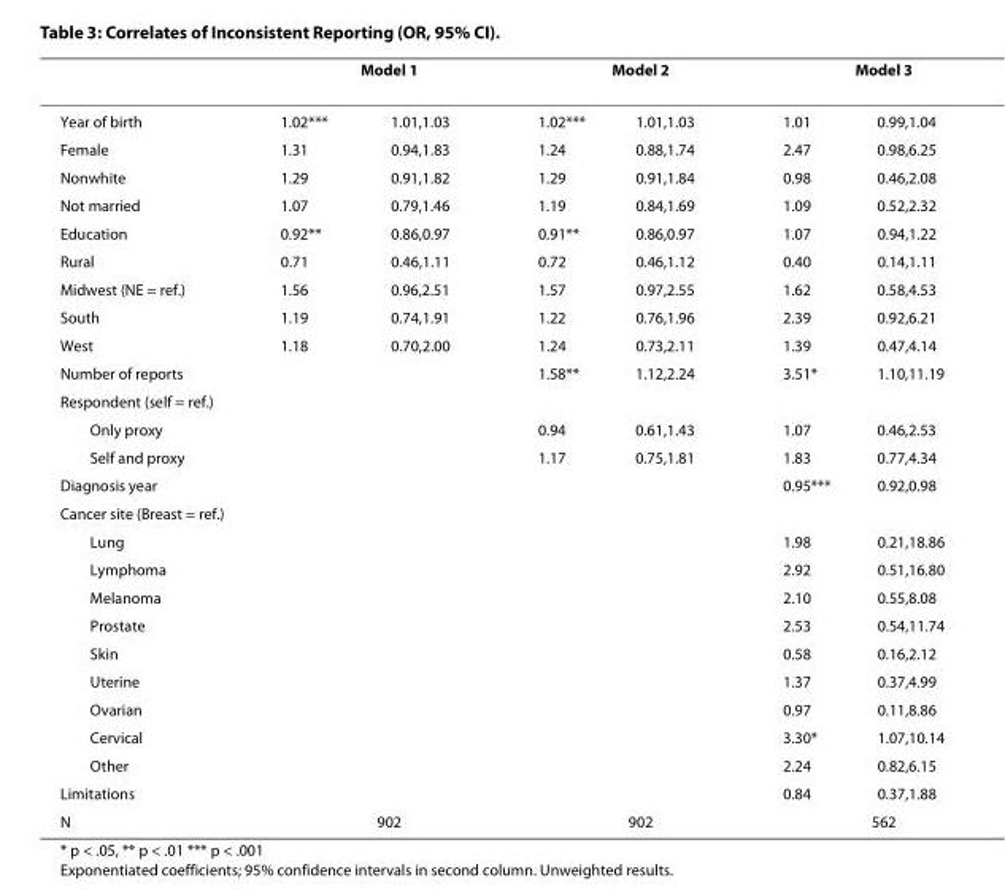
<table><thead><tr><td rowspan="2">Year of birth</td><td colspan="2">Model 1</td><td colspan="2">Model 2</td><td colspan="2">Model 3</td></tr><tr><td>1.02***</td><td>1.01,1.03</td><td>1.02***</td><td>1.01,1.03</td><td>1.01</td><td>0.99,1.04</td></tr></thead><tbody><tr><td>Female</td><td>1.31</td><td>0.94,1.83</td><td>1.24</td><td>0.88,1.74</td><td>2.47</td><td>0.98,6.25</td></tr><tr><td>Nonwhite</td><td>1.29</td><td>0.91,1.82</td><td>1.29</td><td>0.91,1.84</td><td>0.98</td><td>0.46,2.08</td></tr><tr><td>Not married</td><td>1.07</td><td>0.79,1.46</td><td>1.19</td><td>0.84,1.69</td><td>1.09</td><td>0.52,2.32</td></tr><tr><td>Education</td><td>0.92**</td><td>0.86,0.97</td><td>0.91**</td><td>0.86,0.97</td><td>1.07</td><td>0.94,1.22</td></tr><tr><td>Rural</td><td>0.71</td><td>0.46,1.11</td><td>0.72</td><td>0.46,1.12</td><td>0.40</td><td>0.14,1.11</td></tr><tr><td>Midwest (NE = ref.)</td><td>1.56</td><td>0.96,2.51</td><td>1.57</td><td>0.97,2.55</td><td>1.62</td><td>0.58,4.53</td></tr><tr><td>South</td><td>1.19</td><td>0.74,1.91</td><td>1.22</td><td>0.76,1.96</td><td>2.39</td><td>0.92,6.21</td></tr><tr><td>West</td><td>1.18</td><td>0.70,2.00</td><td>1.24</td><td>0.73,2.11</td><td>1.39</td><td>0.47,4.14</td></tr><tr><td>Number of reports</td><td></td><td></td><td>1.58**</td><td>1.12,2.24</td><td>3.51*</td><td>1.10,11.19</td></tr><tr><td colspan="7">Respondent (self = ref.)</td></tr><tr><td>Only proxy</td><td></td><td></td><td>0.94</td><td>0.61,1.43</td><td>1.07</td><td>0.46,2.53</td></tr><tr><td>Self and proxy</td><td></td><td></td><td>1.17</td><td>0.75,1.81</td><td>1.83</td><td>0.77,4.34</td></tr><tr><td>Diagnosis year</td><td></td><td></td><td></td><td></td><td>0.95***</td><td>0.92,0.98</td></tr><tr><td colspan="7">Cancer site (Breast = ref.)</td></tr><tr><td>Lung</td><td></td><td></td><td></td><td></td><td>1.98</td><td>0.21,18.86</td></tr><tr><td>Lymphoma</td><td></td><td></td><td></td><td></td><td>2.92</td><td>0.51,16.80</td></tr><tr><td>Melanoma</td><td></td><td></td><td></td><td></td><td>2.10</td><td>0.55,8.08</td></tr><tr><td>Prostate</td><td></td><td></td><td></td><td></td><td>2.53</td><td>0.54,11.74</td></tr><tr><td>Skin</td><td></td><td></td><td></td><td></td><td>0.58</td><td>0.16,2.12</td></tr><tr><td>Uterine</td><td></td><td></td><td></td><td></td><td>1.37</td><td>0.37,4.99</td></tr><tr><td>Ovarian</td><td></td><td></td><td></td><td></td><td>0.97</td><td>0.11,8.86</td></tr><tr><td>Cervical</td><td></td><td></td><td></td><td></td><td>3.30*</td><td>1.07,10.14</td></tr><tr><td>Other</td><td></td><td></td><td></td><td></td><td>2.24</td><td>0.82,6.15</td></tr><tr><td>Limitations</td><td></td><td></td><td></td><td></td><td>0.84</td><td>0.37,1.88</td></tr><tr><td>N</td><td colspan="2">902</td><td colspan="2">902</td><td colspan="2">562</td></tr></tbody></table>